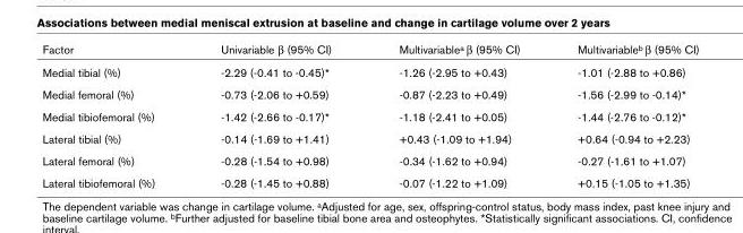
<table><thead><tr><td>Factor</td><td>Univariable β (95% CI)</td><td>Multivariable<sup>a</sup> β (95% CI)</td><td>Multivariable<sup>b</sup> β (95% CI)</td></tr></thead><tbody><tr><td>Medial tibial (%)</td><td>-2.29 (-0.41 to -0.45)*</td><td>-1.26 (-2.95 to +0.43)</td><td>-1.01 (-2.88 to +0.86)</td></tr><tr><td>Medial femoral (%)</td><td>-0.73 (-2.06 to +0.59)</td><td>-0.87 (-2.23 to +0.49)</td><td>-1.56 (-2.99 to -0.14)*</td></tr><tr><td>Medial tibiofemoral (%)</td><td>-1.42 (-2.66 to -0.17)*</td><td>-1.18 (-2.41 to +0.05)</td><td>-1.44 (-2.76 to -0.12)*</td></tr><tr><td>Lateral tibial (%)</td><td>-0.14 (-1.69 to +1.41)</td><td>+0.43 (-1.09 to +1.94)</td><td>+0.64 (-0.94 to +2.23)</td></tr><tr><td>Lateral femoral (%)</td><td>-0.28 (-1.54 to +0.98)</td><td>-0.34 (-1.62 to +0.94)</td><td>-0.27 (-1.61 to +1.07)</td></tr><tr><td>Lateral tibiofemoral (%)</td><td>-0.28 (-1.45 to +0.88)</td><td>-0.07 (-1.22 to +1.09)</td><td>+0.15 (-1.05 to +1.35)</td></tr></tbody></table>